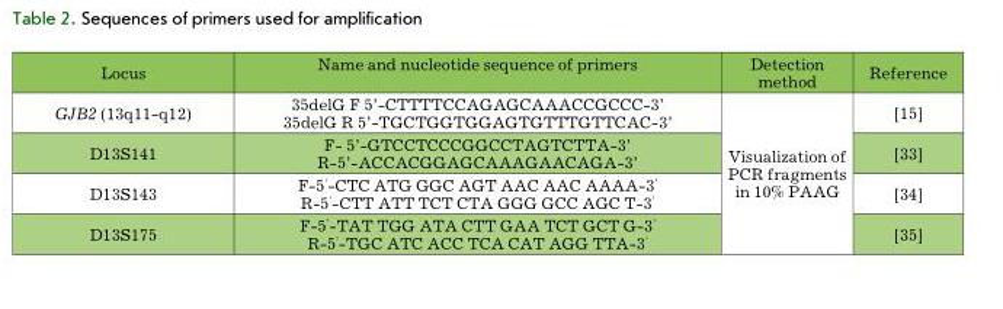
<table><thead><tr><td>Locus</td><td>Name and nucleotide sequence of primers</td><td>Detection method</td><td>Reference</td></tr></thead><tbody><tr><td>GJB2 (13q11-q12)</td><td>35delG F 5’-CTTTTCCAGAGCAAACCGCCC-3’ 35delG R 5’-TGCTGGTGGAGTGTTTGTTCAC-3’</td><td rowspan="4">Visualization of PCR fragments in 10% PAAG</td><td>[15]</td></tr><tr><td>D13S141</td><td>F- 5’-GTCCTCCCGGCCTAGTCTTA-3’ R-5’-ACCACGGAGCAAAGAACAGA-3’</td><td>[33]</td></tr><tr><td>D13S143</td><td>F-5<sup>’</sup>-CTC ATG GGC AGT AAC AAC AAAA-3<sup>’</sup> R-5<sup>’</sup>-CTT ATT TCT CTA GGG GCC AGC T-3<sup>’</sup></td><td>[34]</td></tr><tr><td>D13S175</td><td>F-5<sup>’</sup>-TAT TGG ATA CTT GAA TCT GCT G-3<sup>’</sup> R-5<sup>’</sup>-TGC ATC ACC TCA CAT AGG TTA-3<sup>’</sup></td><td>[35]</td></tr></tbody></table>